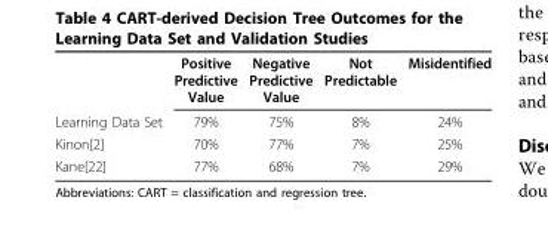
<table><thead><tr><td></td><td>Positive Predictive Value</td><td>Negative Predictive Value</td><td>Not Predictable</td><td>Misidentified</td></tr></thead><tbody><tr><td>Learning Data Set</td><td>79%</td><td>75%</td><td>8%</td><td>24%</td></tr><tr><td>Kinon[2]</td><td>70%</td><td>77%</td><td>7%</td><td>25%</td></tr><tr><td>Kane[22]</td><td>77%</td><td>68%</td><td>7%</td><td>29%</td></tr></tbody></table>